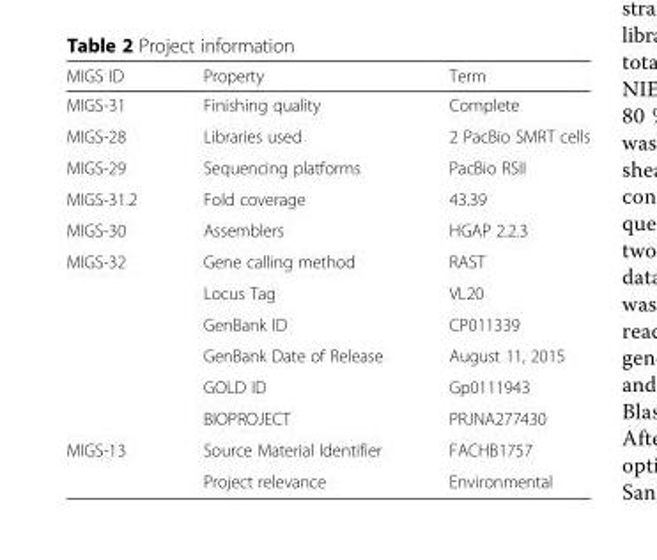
<table><thead><tr><td>MIGS ID</td><td>Property</td><td>Term</td></tr></thead><tbody><tr><td>MIGS-31</td><td>Finishing quality</td><td>Complete</td></tr><tr><td>MIGS-28</td><td>Libraries used</td><td>2 PacBio SMRT cells</td></tr><tr><td>MIGS-29</td><td>Sequencing platforms</td><td>PacBio RSII</td></tr><tr><td>MIGS-31.2</td><td>Fold coverage</td><td>43.39</td></tr><tr><td>MIGS-30</td><td>Assemblers</td><td>HGAP 2.2.3</td></tr><tr><td rowspan="6">MIGS-32</td><td>Gene calling method</td><td>RAST</td></tr><tr><td>Locus Tag</td><td>VL20</td></tr><tr><td>GenBank ID</td><td>CP011339</td></tr><tr><td>GenBank Date of Release</td><td>August 11, 2015</td></tr><tr><td>GOLD ID</td><td>Gp0111943</td></tr><tr><td>BIOPROJECT</td><td>PRJNA277430</td></tr><tr><td rowspan="2">MIGS-13</td><td>Source Material Identifier</td><td>FACHB1757</td></tr><tr><td>Project relevance</td><td>Environmental</td></tr></tbody></table>